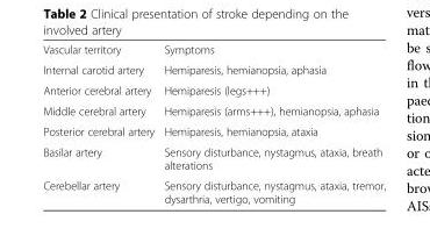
<table><tbody><tr><td>Vascular territory</td><td>Symptoms</td></tr><tr><td>Internal carotid artery</td><td>Hemiparesis, hemianopsia, aphasia</td></tr><tr><td>Anterior cerebral artery</td><td>Hemiparesis (legs+++)</td></tr><tr><td>Middle cerebral artery</td><td>Hemiparesis (arms+++), hemianopsia, aphasia</td></tr><tr><td>Posterior cerebral artery</td><td>Hemiparesis, hemianopsia, ataxia</td></tr><tr><td>Basilar artery</td><td>Sensory disturbance, nystagmus, ataxia, breath alterations</td></tr><tr><td>Cerebellar artery</td><td>Sensory disturbance, nystagmus, ataxia, tremor, dysarthria, vertigo, vomiting</td></tr></tbody></table>